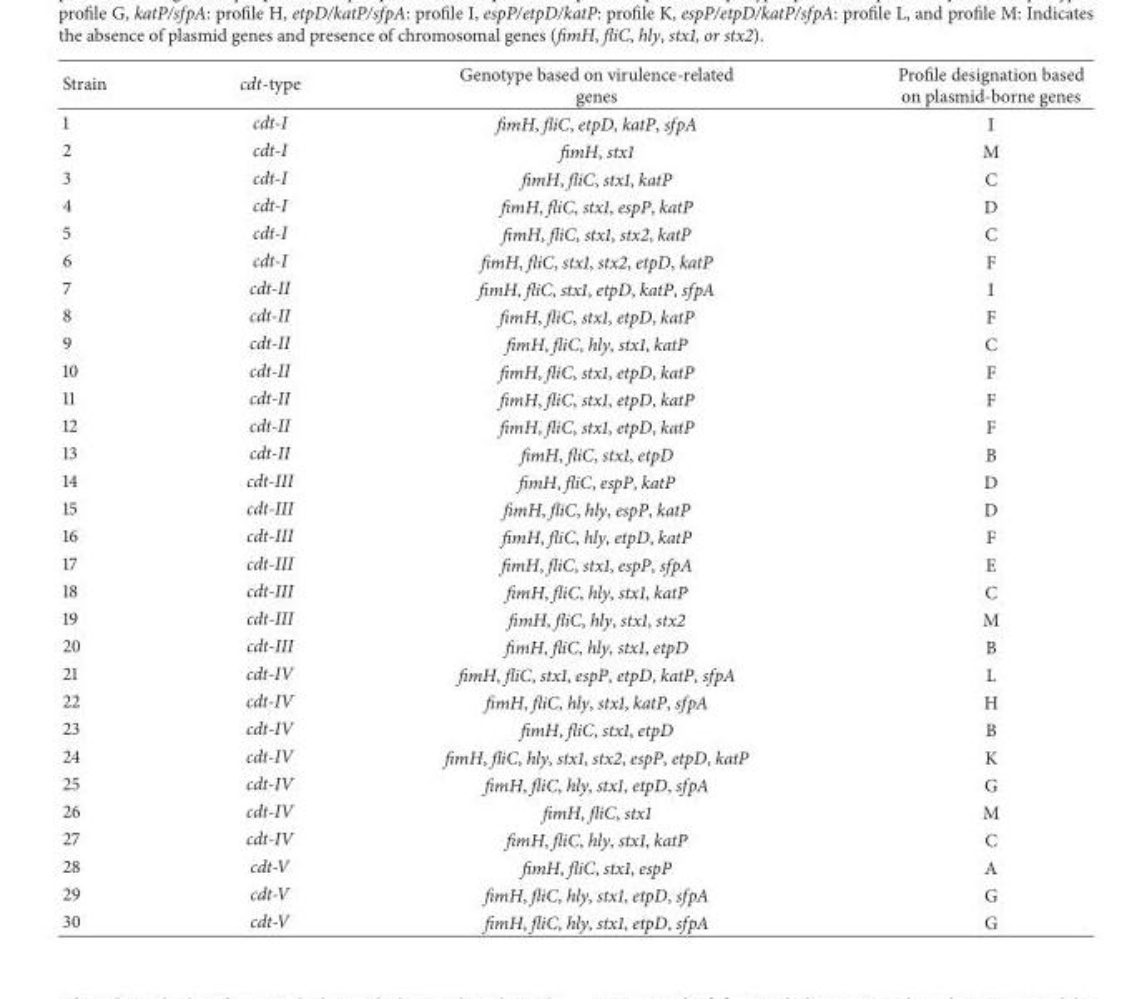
<table><thead><tr><td>Strain</td><td>cdt-type</td><td>Genotype based on virulence-related genes</td><td>Profile designation based on plasmid-borne genes</td></tr></thead><tbody><tr><td>1</td><td>cdt-I</td><td>fimH, fliC, etpD, katP, sfpA</td><td>I</td></tr><tr><td>2</td><td>cdt-I</td><td>fimH, stx1</td><td>M</td></tr><tr><td>3</td><td>cdt-I</td><td>fimH, fliC, stx1, katP</td><td>C</td></tr><tr><td>4</td><td>cdt-I</td><td>fimH, fliC, stx1, espP, katP</td><td>D</td></tr><tr><td>5</td><td>cdt-I</td><td>fimH, fliC, stx1, stx2, katP</td><td>C</td></tr><tr><td>6</td><td>cdt-I</td><td>fimH, fliC, stx1, stx2, etpD, katP</td><td>F</td></tr><tr><td>7</td><td>cdt-II</td><td>fimH, fliC, stx1, etpD, katP, sfpA</td><td>I</td></tr><tr><td>8</td><td>cdt-II</td><td>fimH, fliC, stx1, etpD, katP</td><td>F</td></tr><tr><td>9</td><td>cdt-II</td><td>fimH, fliC, hly, stx1, katP</td><td>C</td></tr><tr><td>10</td><td>cdt-II</td><td>fimH, fliC, stx1, etpD, katP</td><td>F</td></tr><tr><td>11</td><td>cdt-II</td><td>fimH, fliC, stx1, etpD, katP</td><td>F</td></tr><tr><td>12</td><td>cdt-II</td><td>fimH, fliC, stx1, etpD, katP</td><td>F</td></tr><tr><td>13</td><td>cdt-II</td><td>fimH, fliC, stx1, etpD</td><td>B</td></tr><tr><td>14</td><td>cdt-III</td><td>fimH, fliC, espP, katP</td><td>D</td></tr><tr><td>15</td><td>cdt-III</td><td>fimH, fliC, hly, espP, katP</td><td>D</td></tr><tr><td>16</td><td>cdt-III</td><td>fimH, fliC, hly, etpD, katP</td><td>F</td></tr><tr><td>17</td><td>cdt-III</td><td>fimH, fliC, stx1, espP, sfpA</td><td>E</td></tr><tr><td>18</td><td>cdt-III</td><td>fimH, fliC, hly, stx1, katP</td><td>C</td></tr><tr><td>19</td><td>cdt-III</td><td>fimH, fliC, hly, stx1, stx2</td><td>M</td></tr><tr><td>20</td><td>cdt-III</td><td>fimH, fliC, hly, stx1, etpD</td><td>B</td></tr><tr><td>21</td><td>cdt-IV</td><td>fimH, fliC, stx1, espP, etpD, katP, sfpA</td><td>L</td></tr><tr><td>22</td><td>cdt-IV</td><td>fimH, fliC, hly, stx1, katP, sfpA</td><td>H</td></tr><tr><td>23</td><td>cdt-IV</td><td>fimH, fliC, stx1, etpD</td><td>B</td></tr><tr><td>24</td><td>cdt-IV</td><td>fimH, fliC, hly, stx1, stx2, espP, etpD, katP</td><td>K</td></tr><tr><td>25</td><td>cdt-IV</td><td>fimH, fliC, hly, stx1, etpD, sfpA</td><td>G</td></tr><tr><td>26</td><td>cdt-IV</td><td>fimH, fliC, stx1</td><td>M</td></tr><tr><td>27</td><td>cdt-IV</td><td>fimH, fliC, hly, stx1, katP</td><td>C</td></tr><tr><td>28</td><td>cdt-V</td><td>fimH, fliC, stx1, espP</td><td>A</td></tr><tr><td>29</td><td>cdt-V</td><td>fimH, fliC, hly, stx1, etpD, sfpA</td><td>G</td></tr><tr><td>30</td><td>cdt-V</td><td>fimH, fliC, hly, stx1, etpD, sfpA</td><td>G</td></tr></tbody></table>